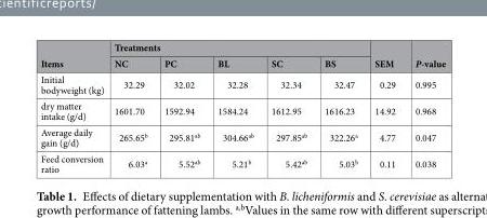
<table><thead><tr><td rowspan="2">Items</td><td colspan="5">Treatments</td><td rowspan="2">SEM</td><td rowspan="2">P-value</td></tr><tr><td>NC</td><td>PC</td><td>BL</td><td>SC</td><td>BS</td></tr></thead><tbody><tr><td>Initial bodyweight (kg)</td><td>32.29</td><td>32.02</td><td>32.28</td><td>32.34</td><td>32.47</td><td>0.29</td><td>0.995</td></tr><tr><td>dry matter intake (g/d)</td><td>1601.70</td><td>1592.94</td><td>1584.24</td><td>1612.95</td><td>1616.23</td><td>14.92</td><td>0.968</td></tr><tr><td>Average daily gain (g/d)</td><td>265.65<sup>b</sup></td><td>295.81<sup>ab</sup></td><td>304.66<sup>ab</sup></td><td>297.85<sup>ab</sup></td><td>322.26<sup>a</sup></td><td>4.77</td><td>0.047</td></tr><tr><td>Feed conversion ratio</td><td>6.03<sup>a</sup></td><td>5.52<sup>ab</sup></td><td>5.21<sup>b</sup></td><td>5.42<sup>ab</sup></td><td>5.03<sup>b</sup></td><td>0.11</td><td>0.038</td></tr></tbody></table>